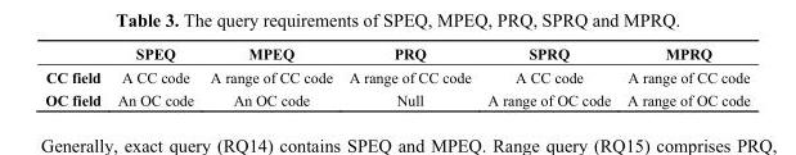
<table><thead><tr><td></td><td>SPEQ</td><td>MPEQ</td><td>PRQ</td><td>SPRQ</td><td>MPRQ</td></tr></thead><tbody><tr><td>CC field</td><td>A CC code</td><td>A range of CC code</td><td>A range of CC code</td><td>A CC code</td><td>A range of CC code</td></tr><tr><td>OC field</td><td>An OC code</td><td>An OC code</td><td>Null</td><td>A range of OC code</td><td>A range of OC code</td></tr></tbody></table>